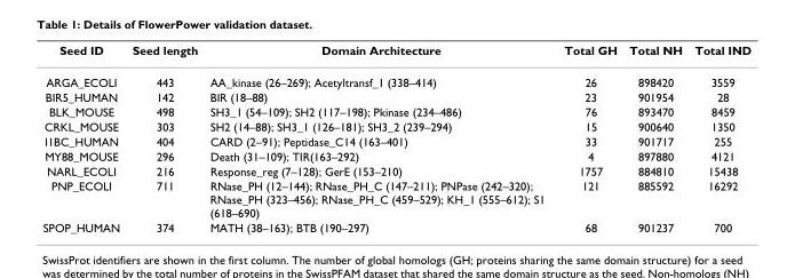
<table><thead><tr><td>Seed ID</td><td>Seed length</td><td>Domain Architecture</td><td>Total GH</td><td>Total NH</td><td>Total IND</td></tr></thead><tbody><tr><td>ARGA_ECOLI</td><td>443</td><td>AA_kinase (26–269); Acetyltransf_1 (338–414)</td><td>26</td><td>898420</td><td>3559</td></tr><tr><td>BIR5_HUMAN</td><td>142</td><td>BIR (18–88)</td><td>23</td><td>901954</td><td>28</td></tr><tr><td>BLK_MOUSE</td><td>498</td><td>SH3_1 (54–109); SH2 (117–198); Pkinase (234–486)</td><td>76</td><td>893470</td><td>8459</td></tr><tr><td>CRKL_MOUSE</td><td>303</td><td>SH2 (14–88); SH3_1 (126–181); SH3_2 (239–294)</td><td>15</td><td>900640</td><td>1350</td></tr><tr><td>I1BC_HUMAN</td><td>404</td><td>CARD (2–91); Peptidase_C14 (163–401)</td><td>33</td><td>901717</td><td>255</td></tr><tr><td>MY88_MOUSE</td><td>296</td><td>Death (31–109); TIR(163–292)</td><td>4</td><td>897880</td><td>4121</td></tr><tr><td>NARL_ECOLI</td><td>216</td><td>Response_reg (7–128); GerE (153–210)</td><td>1757</td><td>884810</td><td>15438</td></tr><tr><td>PNP_ECOLI</td><td>711</td><td>RNase_PH (12–144); RNase_PH_C (147–211); PNPase (242–320); RNase_PH (323–456); RNase_PH_C (459–529); KH_1 (555–612); S1 (618–690)</td><td>121</td><td>885592</td><td>16292</td></tr><tr><td>SPOP_HUMAN</td><td>374</td><td>MATH (38–163); BTB (190–297)</td><td>68</td><td>901237</td><td>700</td></tr></tbody></table>